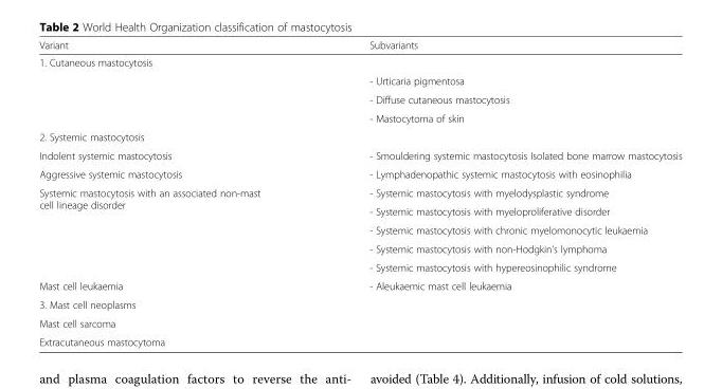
<table><thead><tr><td>Variant</td><td>Subvariants</td></tr></thead><tbody><tr><td colspan="2">1. Cutaneous mastocytosis</td></tr><tr><td rowspan="3"></td><td>- Urticaria pigmentosa</td></tr><tr><td>- Diffuse cutaneous mastocytosis</td></tr><tr><td>- Mastocytoma of skin</td></tr><tr><td colspan="2">2. Systemic mastocytosis</td></tr><tr><td>Indolent systemic mastocytosis</td><td>- Smouldering systemic mastocytosis Isolated bone marrow mastocytosis</td></tr><tr><td>Aggressive systemic mastocytosis</td><td>- Lymphadenopathic systemic mastocytosis with eosinophilia</td></tr><tr><td rowspan="5">Systemic mastocytosis with an associated non-mast cell lineage disorder</td><td>- Systemic mastocytosis with myelodysplastic syndrome</td></tr><tr><td>- Systemic mastocytosis with myeloproliferative disorder</td></tr><tr><td>- Systemic mastocytosis with chronic myelomonocytic leukaemia</td></tr><tr><td>- Systemic mastocytosis with non-Hodgkin’s lymphoma</td></tr><tr><td>- Systemic mastocytosis with hypereosinophilic syndrome</td></tr><tr><td>Mast cell leukaemia</td><td>- Aleukaemic mast cell leukaemia</td></tr><tr><td colspan="2">3. Mast cell neoplasms</td></tr><tr><td colspan="2">Mast cell sarcoma</td></tr><tr><td>Extracutaneous mastocytoma</td><td></td></tr></tbody></table>